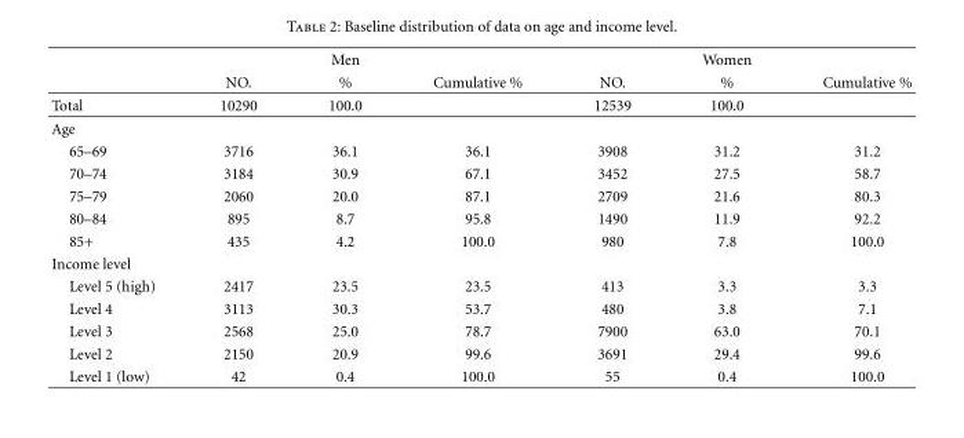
<table><thead><tr><td rowspan="2"></td><td rowspan="2">NO.</td><td rowspan="2">Men %</td><td rowspan="2">Cumulative %</td><td rowspan="2">NO.</td><td rowspan="2">Women %</td><td rowspan="2">Cumulative %</td></tr><tr></tr></thead><tbody><tr><td>Total</td><td>10290</td><td>100.0</td><td></td><td>12539</td><td>100.0</td><td></td></tr><tr><td colspan="7">Age</td></tr><tr><td>65–69</td><td>3716</td><td>36.1</td><td>36.1</td><td>3908</td><td>31.2</td><td>31.2</td></tr><tr><td>70–74</td><td>3184</td><td>30.9</td><td>67.1</td><td>3452</td><td>27.5</td><td>58.7</td></tr><tr><td>75–79</td><td>2060</td><td>20.0</td><td>87.1</td><td>2709</td><td>21.6</td><td>80.3</td></tr><tr><td>80–84</td><td>895</td><td>8.7</td><td>95.8</td><td>1490</td><td>11.9</td><td>92.2</td></tr><tr><td>85+</td><td>435</td><td>4.2</td><td>100.0</td><td>980</td><td>7.8</td><td>100.0</td></tr><tr><td colspan="7">Income level</td></tr><tr><td>Level 5 (high)</td><td>2417</td><td>23.5</td><td>23.5</td><td>413</td><td>3.3</td><td>3.3</td></tr><tr><td>Level 4</td><td>3113</td><td>30.3</td><td>53.7</td><td>480</td><td>3.8</td><td>7.1</td></tr><tr><td>Level 3</td><td>2568</td><td>25.0</td><td>78.7</td><td>7900</td><td>63.0</td><td>70.1</td></tr><tr><td>Level 2</td><td>2150</td><td>20.9</td><td>99.6</td><td>3691</td><td>29.4</td><td>99.6</td></tr><tr><td>Level 1 (low)</td><td>42</td><td>0.4</td><td>100.0</td><td>55</td><td>0.4</td><td>100.0</td></tr></tbody></table>